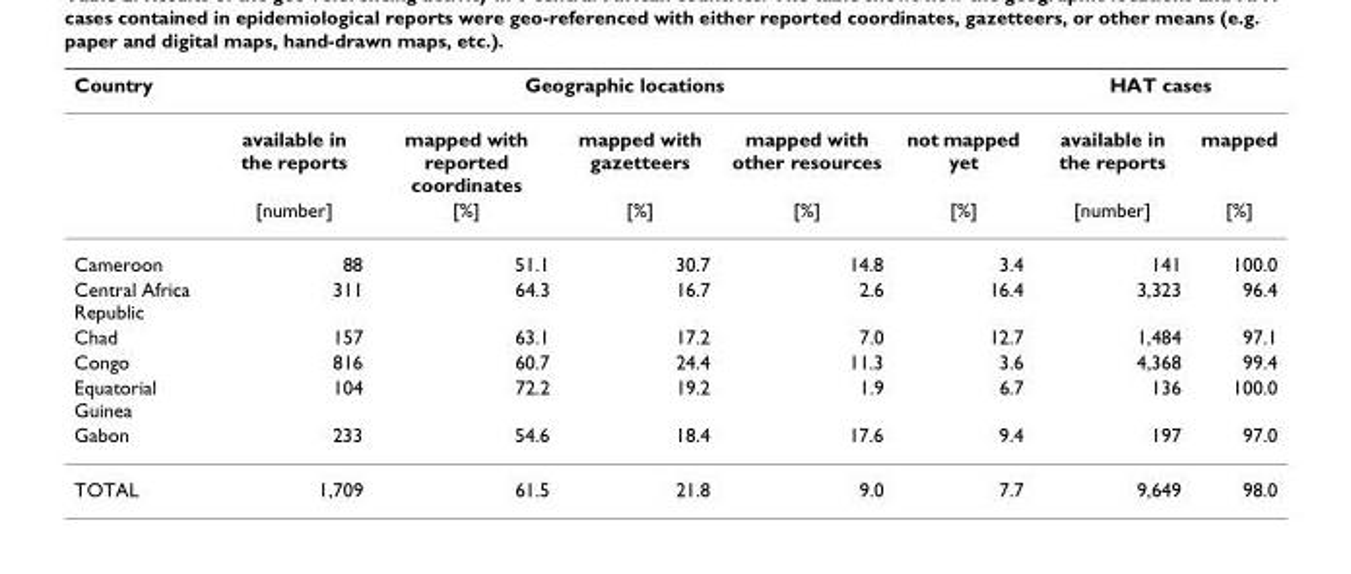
<table><thead><tr><td rowspan="2">Country</td><td colspan="5">Geographic locations</td><td colspan="2">HAT cases</td></tr><tr><td>available in the reports</td><td>mapped with reported coordinates</td><td>mapped with gazetteers</td><td>mapped with other resources</td><td>not mapped yet</td><td>available in the reports</td><td>mapped</td></tr></thead><tbody><tr><td></td><td>[number]</td><td>[%]</td><td>[%]</td><td>[%]</td><td>[%]</td><td>[number]</td><td>[%]</td></tr><tr><td>Cameroon</td><td>88</td><td>51.1</td><td>30.7</td><td>14.8</td><td>3.4</td><td>141</td><td>100.0</td></tr><tr><td>Central Africa Republic</td><td>311</td><td>64.3</td><td>16.7</td><td>2.6</td><td>16.4</td><td>3,323</td><td>96.4</td></tr><tr><td>Chad</td><td>157</td><td>63.1</td><td>17.2</td><td>7.0</td><td>12.7</td><td>1,484</td><td>97.1</td></tr><tr><td>Congo</td><td>816</td><td>60.7</td><td>24.4</td><td>11.3</td><td>3.6</td><td>4,368</td><td>99.4</td></tr><tr><td>Equatorial Guinea</td><td>104</td><td>72.2</td><td>19.2</td><td>1.9</td><td>6.7</td><td>136</td><td>100.0</td></tr><tr><td>Gabon</td><td>233</td><td>54.6</td><td>18.4</td><td>17.6</td><td>9.4</td><td>197</td><td>97.0</td></tr><tr><td>TOTAL</td><td>1,709</td><td>61.5</td><td>21.8</td><td>9.0</td><td>7.7</td><td>9,649</td><td>98.0</td></tr></tbody></table>